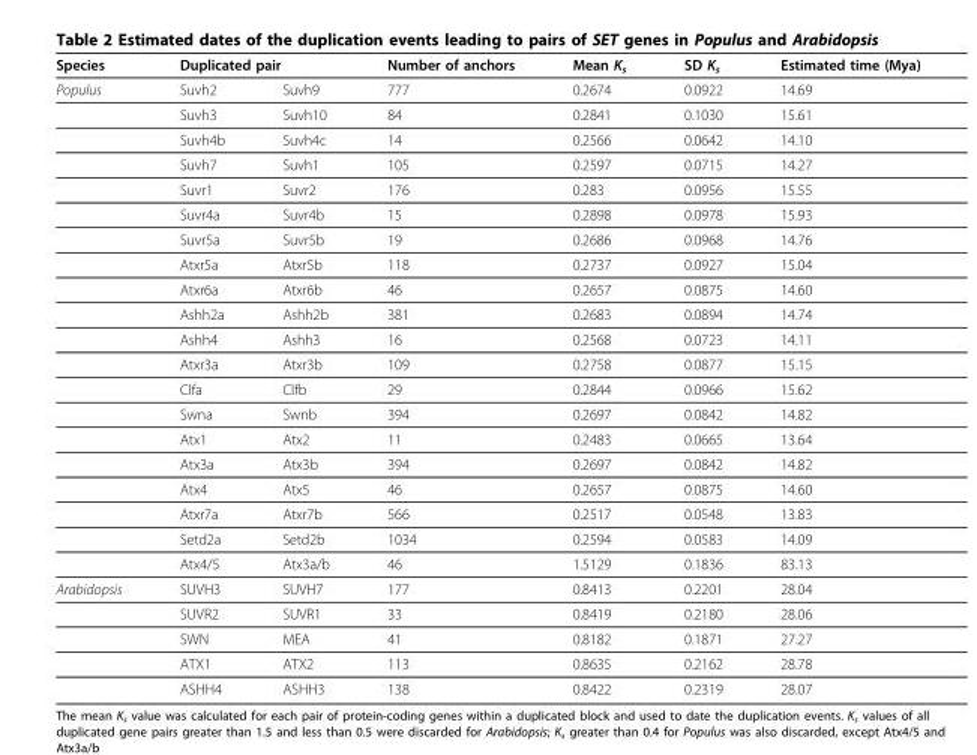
<table><thead><tr><td rowspan="2">Species Populus</td><td colspan="2">Duplicated pair</td><td rowspan="2">Number of anchors 777</td><td rowspan="2">Mean Ks 0.2674</td><td rowspan="2">SD Ks 0.0922</td><td rowspan="2">Estimated time (Mya) 14.69</td></tr><tr><td>Suvh2</td><td>Suvh9</td></tr></thead><tbody><tr><td></td><td>Suvh3</td><td>Suvh10</td><td>84</td><td>0.2841</td><td>0.1030</td><td>15.61</td></tr><tr><td></td><td>Suvh4b</td><td>Suvh4c</td><td>14</td><td>0.2566</td><td>0.0642</td><td>14.10</td></tr><tr><td></td><td>Suvh7</td><td>Suvh1</td><td>105</td><td>0.2597</td><td>0.0715</td><td>14.27</td></tr><tr><td></td><td>Suvr1</td><td>Suvr2</td><td>176</td><td>0.283</td><td>0.0956</td><td>15.55</td></tr><tr><td></td><td>Suvr4a</td><td>Suvr4b</td><td>15</td><td>0.2898</td><td>0.0978</td><td>15.93</td></tr><tr><td></td><td>Suvr5a</td><td>Suvr5b</td><td>19</td><td>0.2686</td><td>0.0968</td><td>14.76</td></tr><tr><td></td><td>Atxr5a</td><td>Atxr5b</td><td>118</td><td>0.2737</td><td>0.0927</td><td>15.04</td></tr><tr><td></td><td>Atxr6a</td><td>Atxr6b</td><td>46</td><td>0.2657</td><td>0.0875</td><td>14.60</td></tr><tr><td></td><td>Ashh2a</td><td>Ashh2b</td><td>381</td><td>0.2683</td><td>0.0894</td><td>14.74</td></tr><tr><td></td><td>Ashh4</td><td>Ashh3</td><td>16</td><td>0.2568</td><td>0.0723</td><td>14.11</td></tr><tr><td></td><td>Atxr3a</td><td>Atxr3b</td><td>109</td><td>0.2758</td><td>0.0877</td><td>15.15</td></tr><tr><td></td><td>Clfa</td><td>Clfb</td><td>29</td><td>0.2844</td><td>0.0966</td><td>15.62</td></tr><tr><td></td><td>Swna</td><td>Swnb</td><td>394</td><td>0.2697</td><td>0.0842</td><td>14.82</td></tr><tr><td></td><td>Atx1</td><td>Atx2</td><td>11</td><td>0.2483</td><td>0.0665</td><td>13.64</td></tr><tr><td></td><td>Atx3a</td><td>Atx3b</td><td>394</td><td>0.2697</td><td>0.0842</td><td>14.82</td></tr><tr><td></td><td>Atx4</td><td>Atx5</td><td>46</td><td>0.2657</td><td>0.0875</td><td>14.60</td></tr><tr><td></td><td>Atxr7a</td><td>Atxr7b</td><td>566</td><td>0.2517</td><td>0.0548</td><td>13.83</td></tr><tr><td></td><td>Setd2a</td><td>Setd2b</td><td>1034</td><td>0.2594</td><td>0.0583</td><td>14.09</td></tr><tr><td></td><td>Atx4/5</td><td>Atx3a/b</td><td>46</td><td>1.5129</td><td>0.1836</td><td>83.13</td></tr><tr><td rowspan="5">Arabidopsis</td><td>SUVH3</td><td>SUVH7</td><td>177</td><td>0.8413</td><td>0.2201</td><td>28.04</td></tr><tr><td>SUVR2</td><td>SUVR1</td><td>33</td><td>0.8419</td><td>0.2180</td><td>28.06</td></tr><tr><td>SWN</td><td>MEA</td><td>41</td><td>0.8182</td><td>0.1871</td><td>27.27</td></tr><tr><td>ATX1</td><td>ATX2</td><td>113</td><td>0.8635</td><td>0.2162</td><td>28.78</td></tr><tr><td>ASHH4</td><td>ASHH3</td><td>138</td><td>0.8422</td><td>0.2319</td><td>28.07</td></tr></tbody></table>